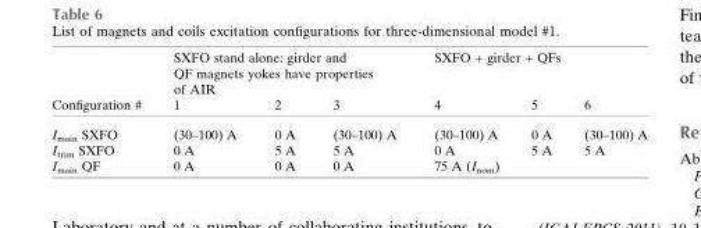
<table><thead><tr><td rowspan="2">Configuration #</td><td colspan="3">SXFO stand alone: girder and QF magnets yokes have properties of AIR</td><td colspan="3">SXFO + girder + QFs</td></tr><tr><td>1</td><td>2</td><td>3</td><td>4</td><td>5</td><td>6</td></tr></thead><tbody><tr><td>I<sub>main</sub> SXFO</td><td>(30–100) A</td><td>0 A</td><td>(30–100) A</td><td>(30–100) A</td><td>0 A</td><td>(30–100) A</td></tr><tr><td>I<sub>trim</sub> SXFO</td><td>0 A</td><td>5 A</td><td>5 A</td><td>0 A</td><td>5 A</td><td>5 A</td></tr><tr><td>I<sub>main</sub> QF</td><td>0 A</td><td>0 A</td><td>0 A</td><td>75 A (I<sub>nom</sub>)</td><td></td><td></td></tr></tbody></table>